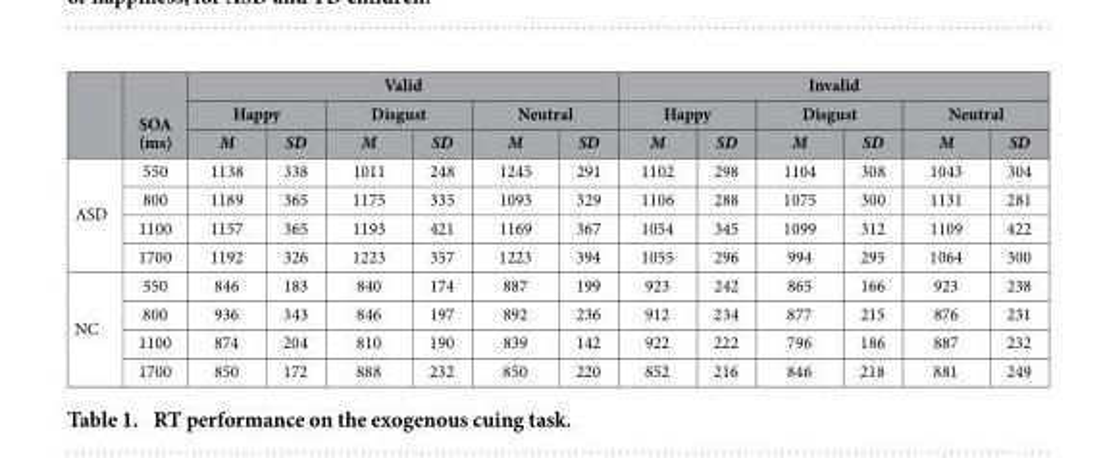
<table><thead><tr><td rowspan="3"></td><td rowspan="3">SOA (ms)</td><td colspan="6">Valid</td><td colspan="6">Invalid</td></tr><tr><td colspan="2">Happy</td><td colspan="2">Disgust</td><td colspan="2">Neutral</td><td colspan="2">Happy</td><td colspan="2">Disgust</td><td colspan="2">Neutral</td></tr><tr><td>M</td><td>SD</td><td>M</td><td>SD</td><td>M</td><td>SD</td><td>M</td><td>SD</td><td>M</td><td>SD</td><td>M</td><td>SD</td></tr></thead><tbody><tr><td rowspan="4">ASD</td><td>550</td><td>1138</td><td>338</td><td>1011</td><td>248</td><td>1245</td><td>291</td><td>1102</td><td>298</td><td>1104</td><td>308</td><td>1043</td><td>304</td></tr><tr><td>800</td><td>1189</td><td>365</td><td>1175</td><td>335</td><td>1093</td><td>329</td><td>1106</td><td>288</td><td>1075</td><td>300</td><td>1131</td><td>281</td></tr><tr><td>1100</td><td>1157</td><td>365</td><td>1193</td><td>421</td><td>1169</td><td>367</td><td>1054</td><td>345</td><td>1099</td><td>312</td><td>1109</td><td>422</td></tr><tr><td>1700</td><td>1192</td><td>326</td><td>1223</td><td>357</td><td>1223</td><td>394</td><td>1055</td><td>296</td><td>994</td><td>295</td><td>1064</td><td>300</td></tr><tr><td rowspan="4">NC</td><td>550</td><td>846</td><td>183</td><td>840</td><td>174</td><td>887</td><td>199</td><td>923</td><td>242</td><td>865</td><td>166</td><td>923</td><td>238</td></tr><tr><td>800</td><td>936</td><td>343</td><td>846</td><td>197</td><td>892</td><td>236</td><td>912</td><td>234</td><td>877</td><td>215</td><td>876</td><td>231</td></tr><tr><td>1100</td><td>874</td><td>204</td><td>810</td><td>190</td><td>839</td><td>142</td><td>922</td><td>222</td><td>796</td><td>186</td><td>887</td><td>232</td></tr><tr><td>1700</td><td>850</td><td>172</td><td>888</td><td>232</td><td>850</td><td>220</td><td>852</td><td>216</td><td>846</td><td>218</td><td>881</td><td>249</td></tr></tbody></table>